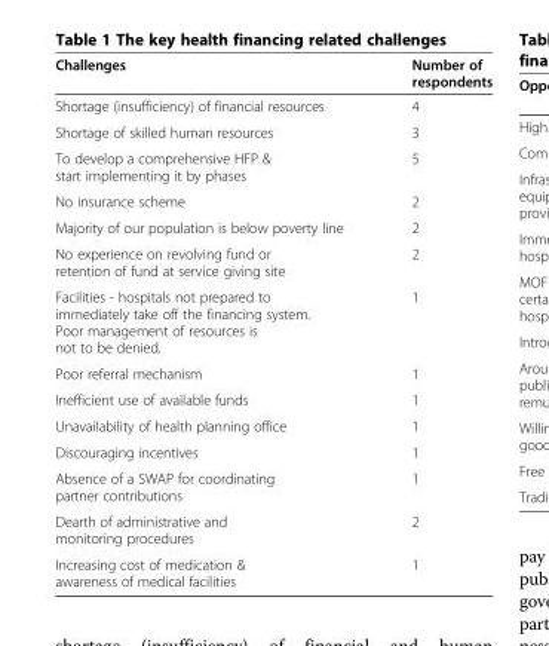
<table><thead><tr><td>Challenges</td><td>Number of respondents</td></tr></thead><tbody><tr><td>Shortage (insufficiency) of financial resources</td><td>4</td></tr><tr><td>Shortage of skilled human resources</td><td>3</td></tr><tr><td>To develop a comprehensive HFP &amp; start implementing it by phases</td><td>5</td></tr><tr><td>No insurance scheme</td><td>2</td></tr><tr><td>Majority of our population is below poverty line</td><td>2</td></tr><tr><td>No experience on revolving fund or retention of fund at service giving site</td><td>2</td></tr><tr><td>Facilities - hospitals not prepared to immediately take off the financing system. Poor management of resources is not to be denied.</td><td>1</td></tr><tr><td>Poor referral mechanism</td><td>1</td></tr><tr><td>Inefficient use of available funds</td><td>1</td></tr><tr><td>Unavailability of health planning office</td><td>1</td></tr><tr><td>Discouraging incentives</td><td>1</td></tr><tr><td>Absence of a SWAP for coordinating partner contributions</td><td>1</td></tr><tr><td>Dearth of administrative and monitoring procedures</td><td>2</td></tr><tr><td>Increasing cost of medication &amp; awareness of medical facilities</td><td>1</td></tr></tbody></table>